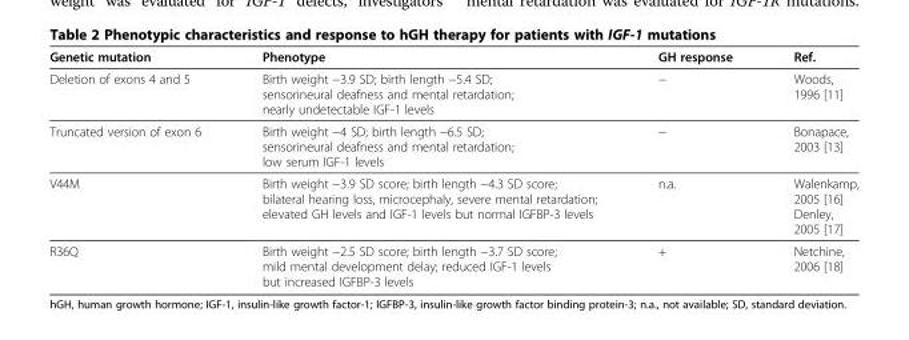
<table><thead><tr><td>Genetic mutation</td><td>Phenotype</td><td>GH response</td><td>Ref.</td></tr></thead><tbody><tr><td>Deletion of exons 4 and 5</td><td>Birth weight −3.9 SD; birth length −5.4 SD; sensorineural deafness and mental retardation; nearly undetectable IGF-1 levels</td><td>−</td><td>Woods, 1996 [11]</td></tr><tr><td>Truncated version of exon 6</td><td>Birth weight −4 SD; birth length −6.5 SD; sensorineural deafness and mental retardation; low serum IGF-1 levels</td><td>−</td><td>Bonapace, 2003 [13]</td></tr><tr><td>V44M</td><td>Birth weight −3.9 SD score; birth length −4.3 SD score; bilateral hearing loss, microcephaly, severe mental retardation; elevated GH levels and IGF-1 levels but normal IGFBP-3 levels</td><td>n.a.</td><td>Walenkamp, 2005 [16] Denley, 2005 [17]</td></tr><tr><td>R36Q</td><td>Birth weight −2.5 SD score; birth length −3.7 SD score; mild mental development delay; reduced IGF-1 levels but increased IGFBP-3 levels</td><td>+</td><td>Netchine, 2006 [18]</td></tr></tbody></table>